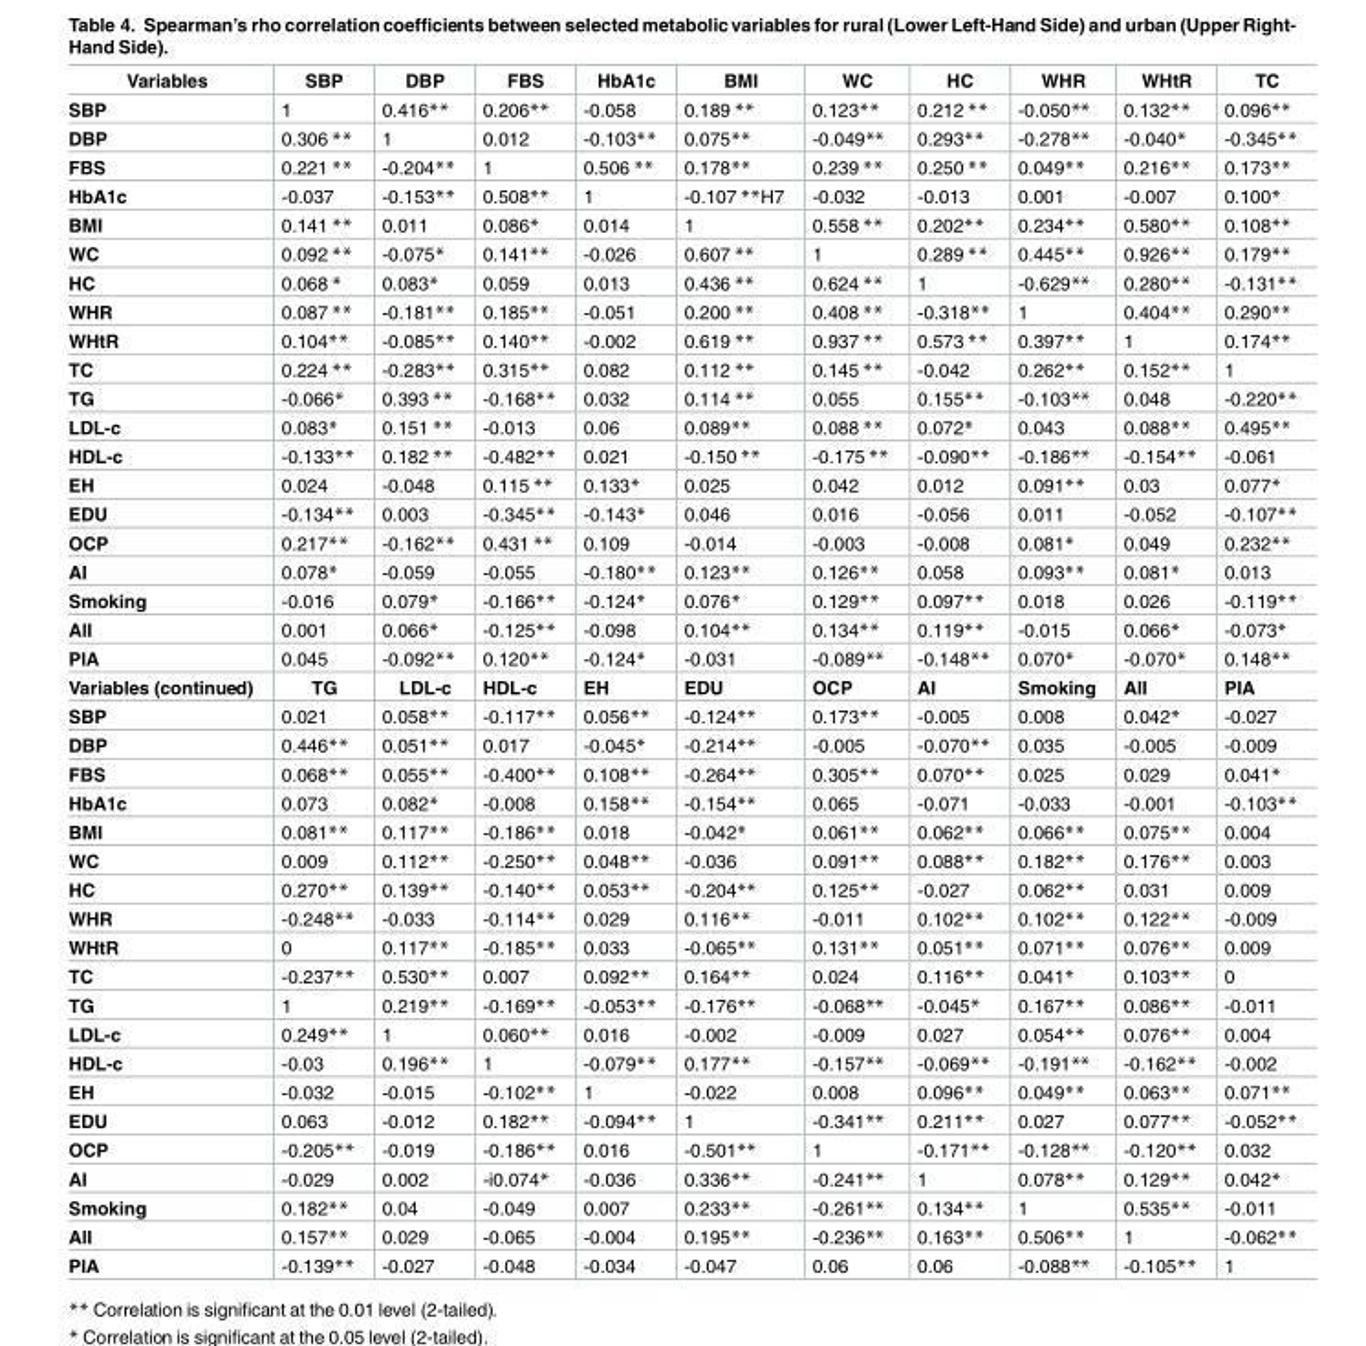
<table><tbody><tr><td>Variables</td><td>SBP</td><td>DBP</td><td>FBS</td><td>HbA1c</td><td>BMI</td><td>WC</td><td>HC</td><td>WHR</td><td>WHtR</td><td>TC</td></tr><tr><td>SBP</td><td>1</td><td>0.416**</td><td>0.206**</td><td>-0.058</td><td>0.189 **</td><td>0.123**</td><td>0.212 **</td><td>-0.050**</td><td>0.132**</td><td>0.096**</td></tr><tr><td>DBP</td><td>0.306 **</td><td>1</td><td>0.012</td><td>-0.103**</td><td>0.075**</td><td>-0.049**</td><td>0.293**</td><td>-0.278**</td><td>-0.040*</td><td>-0.345**</td></tr><tr><td>FBS</td><td>0.221 **</td><td>-0.204**</td><td>1</td><td>0.506 **</td><td>0.178**</td><td>0.239 **</td><td>0.250 **</td><td>0.049**</td><td>0.216**</td><td>0.173**</td></tr><tr><td>HbA1c</td><td>-0.037</td><td>-0.153**</td><td>0.508**</td><td>1</td><td>-0.107 **H7</td><td>-0.032</td><td>-0.013</td><td>0.001</td><td>-0.007</td><td>0.100*</td></tr><tr><td>BMI</td><td>0.141 **</td><td>0.011</td><td>0.086*</td><td>0.014</td><td>1</td><td>0.558 **</td><td>0.202**</td><td>0.234**</td><td>0.580**</td><td>0.108**</td></tr><tr><td>WC</td><td>0.092 **</td><td>-0.075*</td><td>0.141**</td><td>-0.026</td><td>0.607 **</td><td>1</td><td>0.289 **</td><td>0.445**</td><td>0.926**</td><td>0.179**</td></tr><tr><td>HC</td><td>0.068 *</td><td>0.083*</td><td>0.059</td><td>0.013</td><td>0.436 **</td><td>0.624 **</td><td>1</td><td>-0.629**</td><td>0.280**</td><td>-0.131**</td></tr><tr><td>WHR</td><td>0.087 **</td><td>-0.181**</td><td>0.185**</td><td>-0.051</td><td>0.200 **</td><td>0.408 **</td><td>-0.318**</td><td>1</td><td>0.404**</td><td>0.290**</td></tr><tr><td>WHtR</td><td>0.104**</td><td>-0.085**</td><td>0.140**</td><td>-0.002</td><td>0.619 **</td><td>0.937 **</td><td>0.573 **</td><td>0.397**</td><td>1</td><td>0.174**</td></tr><tr><td>TC</td><td>0.224 **</td><td>-0.283**</td><td>0.315**</td><td>0.082</td><td>0.112 **</td><td>0.145 **</td><td>-0.042</td><td>0.262**</td><td>0.152**</td><td>1</td></tr><tr><td>TG</td><td>-0.066*</td><td>0.393 **</td><td>-0.168**</td><td>0.032</td><td>0.114 **</td><td>0.055</td><td>0.155**</td><td>-0.103**</td><td>0.048</td><td>-0.220**</td></tr><tr><td>LDL-c</td><td>0.083*</td><td>0.151 **</td><td>-0.013</td><td>0.06</td><td>0.089**</td><td>0.088 **</td><td>0.072*</td><td>0.043</td><td>0.088**</td><td>0.495**</td></tr><tr><td>HDL-c</td><td>-0.133**</td><td>0.182 **</td><td>-0.482**</td><td>0.021</td><td>-0.150 **</td><td>-0.175 **</td><td>-0.090**</td><td>-0.186**</td><td>-0.154**</td><td>-0.061</td></tr><tr><td>EH</td><td>0.024</td><td>-0.048</td><td>0.115 **</td><td>0.133*</td><td>0.025</td><td>0.042</td><td>0.012</td><td>0.091**</td><td>0.03</td><td>0.077*</td></tr><tr><td>EDU</td><td>-0.134**</td><td>0.003</td><td>-0.345**</td><td>-0.143*</td><td>0.046</td><td>0.016</td><td>-0.056</td><td>0.011</td><td>-0.052</td><td>-0.107**</td></tr><tr><td>OCP</td><td>0.217**</td><td>-0.162**</td><td>0.431 **</td><td>0.109</td><td>-0.014</td><td>-0.003</td><td>-0.008</td><td>0.081*</td><td>0.049</td><td>0.232**</td></tr><tr><td>AI</td><td>0.078*</td><td>-0.059</td><td>-0.055</td><td>-0.180**</td><td>0.123**</td><td>0.126**</td><td>0.058</td><td>0.093**</td><td>0.081*</td><td>0.013</td></tr><tr><td>Smoking</td><td>-0.016</td><td>0.079*</td><td>-0.166**</td><td>-0.124*</td><td>0.076*</td><td>0.129**</td><td>0.097**</td><td>0.018</td><td>0.026</td><td>-0.119**</td></tr><tr><td>AlI</td><td>0.001</td><td>0.066*</td><td>-0.125**</td><td>-0.098</td><td>0.104**</td><td>0.134**</td><td>0.119**</td><td>-0.015</td><td>0.066*</td><td>-0.073*</td></tr><tr><td>PIA</td><td>0.045</td><td>-0.092**</td><td>0.120**</td><td>-0.124*</td><td>-0.031</td><td>-0.089**</td><td>-0.148**</td><td>0.070*</td><td>-0.070*</td><td>0.148**</td></tr><tr><td>Variables (continued)</td><td>TG</td><td>LDL-c</td><td>HDL-c</td><td>EH</td><td>EDU</td><td>OCP</td><td>AI</td><td>Smoking</td><td>AlI</td><td>PIA</td></tr><tr><td>SBP</td><td>0.021</td><td>0.058**</td><td>-0.117**</td><td>0.056**</td><td>-0.124**</td><td>0.173**</td><td>-0.005</td><td>0.008</td><td>0.042*</td><td>-0.027</td></tr><tr><td>DBP</td><td>0.446**</td><td>0.051**</td><td>0.017</td><td>-0.045*</td><td>-0.214**</td><td>-0.005</td><td>-0.070**</td><td>0.035</td><td>-0.005</td><td>-0.009</td></tr><tr><td>FBS</td><td>0.068**</td><td>0.055**</td><td>-0.400**</td><td>0.108**</td><td>-0.264**</td><td>0.305**</td><td>0.070**</td><td>0.025</td><td>0.029</td><td>0.041*</td></tr><tr><td>HbA1c</td><td>0.073</td><td>0.082*</td><td>-0.008</td><td>0.158**</td><td>-0.154**</td><td>0.065</td><td>-0.071</td><td>-0.033</td><td>-0.001</td><td>-0.103**</td></tr><tr><td>BMI</td><td>0.081**</td><td>0.117**</td><td>-0.186**</td><td>0.018</td><td>-0.042*</td><td>0.061**</td><td>0.062**</td><td>0.066**</td><td>0.075**</td><td>0.004</td></tr><tr><td>WC</td><td>0.009</td><td>0.112**</td><td>-0.250**</td><td>0.048**</td><td>-0.036</td><td>0.091**</td><td>0.088**</td><td>0.182**</td><td>0.176**</td><td>0.003</td></tr><tr><td>HC</td><td>0.270**</td><td>0.139**</td><td>-0.140**</td><td>0.053**</td><td>-0.204**</td><td>0.125**</td><td>-0.027</td><td>0.062**</td><td>0.031</td><td>0.009</td></tr><tr><td>WHR</td><td>-0.248**</td><td>-0.033</td><td>-0.114**</td><td>0.029</td><td>0.116**</td><td>-0.011</td><td>0.102**</td><td>0.102**</td><td>0.122**</td><td>-0.009</td></tr><tr><td>WHtR</td><td>0</td><td>0.117**</td><td>-0.185**</td><td>0.033</td><td>-0.065**</td><td>0.131**</td><td>0.051**</td><td>0.071**</td><td>0.076**</td><td>0.009</td></tr><tr><td>TC</td><td>-0.237**</td><td>0.530**</td><td>0.007</td><td>0.092**</td><td>0.164**</td><td>0.024</td><td>0.116**</td><td>0.041*</td><td>0.103**</td><td>0</td></tr><tr><td>TG</td><td>1</td><td>0.219**</td><td>-0.169**</td><td>-0.053**</td><td>-0.176**</td><td>-0.068**</td><td>-0.045*</td><td>0.167**</td><td>0.086**</td><td>-0.011</td></tr><tr><td>LDL-c</td><td>0.249**</td><td>1</td><td>0.060**</td><td>0.016</td><td>-0.002</td><td>-0.009</td><td>0.027</td><td>0.054**</td><td>0.076**</td><td>0.004</td></tr><tr><td>HDL-c</td><td>-0.03</td><td>0.196**</td><td>1</td><td>-0.079**</td><td>0.177**</td><td>-0.157**</td><td>-0.069**</td><td>-0.191**</td><td>-0.162**</td><td>-0.002</td></tr><tr><td>EH</td><td>-0.032</td><td>-0.015</td><td>-0.102**</td><td>1</td><td>-0.022</td><td>0.008</td><td>0.096**</td><td>0.049**</td><td>0.063**</td><td>0.071**</td></tr><tr><td>EDU</td><td>0.063</td><td>-0.012</td><td>0.182**</td><td>-0.094**</td><td>1</td><td>-0.341**</td><td>0.211**</td><td>0.027</td><td>0.077**</td><td>-0.052**</td></tr><tr><td>OCP</td><td>-0.205**</td><td>-0.019</td><td>-0.186**</td><td>0.016</td><td>-0.501**</td><td>1</td><td>-0.171**</td><td>-0.128**</td><td>-0.120**</td><td>0.032</td></tr><tr><td>AI</td><td>-0.029</td><td>0.002</td><td>-i0.074*</td><td>-0.036</td><td>0.336**</td><td>-0.241**</td><td>1</td><td>0.078**</td><td>0.129**</td><td>0.042*</td></tr><tr><td>Smoking</td><td>0.182**</td><td>0.04</td><td>-0.049</td><td>0.007</td><td>0.233**</td><td>-0.261**</td><td>0.134**</td><td>1</td><td>0.535**</td><td>-0.011</td></tr><tr><td>AlI</td><td>0.157**</td><td>0.029</td><td>-0.065</td><td>-0.004</td><td>0.195**</td><td>-0.236**</td><td>0.163**</td><td>0.506**</td><td>1</td><td>-0.062**</td></tr><tr><td>PIA</td><td>-0.139**</td><td>-0.027</td><td>-0.048</td><td>-0.034</td><td>-0.047</td><td>0.06</td><td>0.06</td><td>-0.088**</td><td>-0.105**</td><td>1</td></tr></tbody></table>